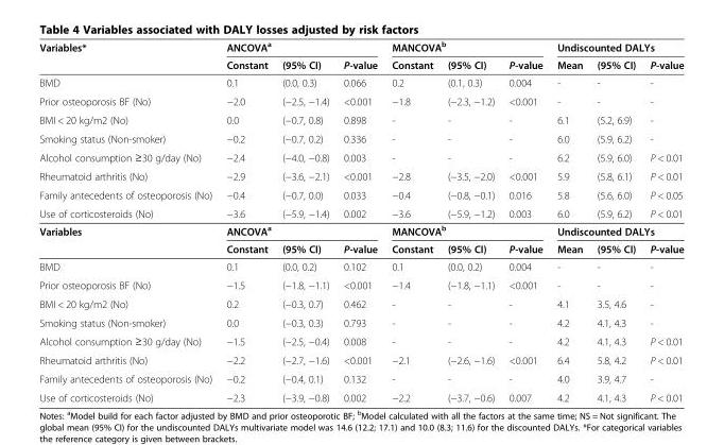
<table><thead><tr><td rowspan="2">Variables*</td><td colspan="3">ANCOVA<sup>a</sup></td><td colspan="3">MANCOVA<sup>b</sup></td><td colspan="3">Undiscounted DALYs</td></tr><tr><td>Constant</td><td>(95% CI)</td><td>P-value</td><td>Constant</td><td>(95% CI)</td><td>P-value</td><td>Mean</td><td>(95% CI)</td><td>P-value</td></tr></thead><tbody><tr><td>BMD</td><td>0.1</td><td>(0.0, 0.3)</td><td>0.066</td><td>0.2</td><td>(0.1, 0.3)</td><td>0.004</td><td>-</td><td>-</td><td>-</td></tr><tr><td>Prior osteoporosis BF (No)</td><td>−2.0</td><td>(−2.5, −1.4)</td><td>&lt;0.001</td><td>−1.8</td><td>(−2.3, −1.2)</td><td>&lt;0.001</td><td>-</td><td>-</td><td>-</td></tr><tr><td>BMI &lt; 20 kg/m2 (No)</td><td>0.0</td><td>(−0.7, 0.8)</td><td>0.898</td><td>-</td><td>-</td><td>-</td><td>6.1</td><td>(5.2, 6.9)</td><td>-</td></tr><tr><td>Smoking status (Non-smoker)</td><td>−0.2</td><td>(−0.7, 0.2)</td><td>0.336</td><td>-</td><td>-</td><td>-</td><td>6.0</td><td>(5.9, 6.2)</td><td>-</td></tr><tr><td>Alcohol consumption ≥30 g/day (No)</td><td>−2.4</td><td>(−4.0, −0.8)</td><td>0.003</td><td>-</td><td>-</td><td>-</td><td>6.2</td><td>(5.9, 6.0)</td><td>P &lt; 0.01</td></tr><tr><td>Rheumatoid arthritis (No)</td><td>−2.9</td><td>(−3.6, −2.1)</td><td>&lt;0.001</td><td>−2.8</td><td>(−3.5, −2.0)</td><td>&lt;0.001</td><td>5.9</td><td>(5.8, 6.1)</td><td>P &lt; 0.01</td></tr><tr><td>Family antecedents of osteoporosis (No)</td><td>−0.4</td><td>(−0.7, 0.0)</td><td>0.033</td><td>−0.4</td><td>(−0.8, −0.1)</td><td>0.016</td><td>5.8</td><td>(5.6, 6.0)</td><td>P &lt; 0.05</td></tr><tr><td>Use of corticosteroids (No)</td><td>−3.6</td><td>(−5.9, −1.4)</td><td>0.002</td><td>−3.6</td><td>(−5.9, −1.2)</td><td>0.003</td><td>6.0</td><td>(5.9, 6.2)</td><td>P &lt; 0.01</td></tr><tr><td rowspan="2">Variables</td><td colspan="3">ANCOVA<sup>a</sup></td><td colspan="3">MANCOVA<sup>b</sup></td><td colspan="3">Undiscounted DALYs</td></tr><tr><td>Constant</td><td>(95% CI)</td><td>P-value</td><td>Constant</td><td>(95% CI)</td><td>P-value</td><td>Mean</td><td>(95% CI)</td><td>P-value</td></tr><tr><td>BMD</td><td>0.1</td><td>(0.0, 0.2)</td><td>0.102</td><td>0.1</td><td>(0.0, 0.2)</td><td>0.004</td><td>-</td><td>-</td><td>-</td></tr><tr><td>Prior osteoporosis BF (No)</td><td>−1.5</td><td>(−1.8, −1.1)</td><td>&lt;0.001</td><td>−1.4</td><td>(−1.8, −1.1)</td><td>&lt;0.001</td><td>-</td><td>-</td><td>-</td></tr><tr><td>BMI &lt; 20 kg/m2 (No)</td><td>0.2</td><td>(−0.3, 0.7)</td><td>0.462</td><td>-</td><td>-</td><td>-</td><td>4.1</td><td>3.5, 4.6</td><td>-</td></tr><tr><td>Smoking status (Non-smoker)</td><td>0.0</td><td>(−0.3, 0.3)</td><td>0.793</td><td>-</td><td>-</td><td>-</td><td>4.2</td><td>4.1, 4.3</td><td>-</td></tr><tr><td>Alcohol consumption ≥30 g/day (No)</td><td>−1.5</td><td>(−2.5, −0.4)</td><td>0.008</td><td>-</td><td>-</td><td>-</td><td>4.2</td><td>4.1, 4.3</td><td>P &lt; 0.01</td></tr><tr><td>Rheumatoid arthritis (No)</td><td>−2.2</td><td>(−2.7, −1.6)</td><td>&lt;0.001</td><td>−2.1</td><td>(−2.6, −1.6)</td><td>&lt;0.001</td><td>6.4</td><td>5.8, 4.2</td><td>P &lt; 0.01</td></tr><tr><td>Family antecedents of osteoporosis (No)</td><td>−0.2</td><td>(−0.4, 0.1)</td><td>0.132</td><td>-</td><td>-</td><td>-</td><td>4.0</td><td>3.9, 4.7</td><td>-</td></tr><tr><td>Use of corticosteroids (No)</td><td>−2.3</td><td>(−3.9, −0.8)</td><td>0.002</td><td>−2.2</td><td>(−3.7, −0.6)</td><td>0.007</td><td>4.2</td><td>4.1, 4.3</td><td>P &lt; 0.01</td></tr></tbody></table>